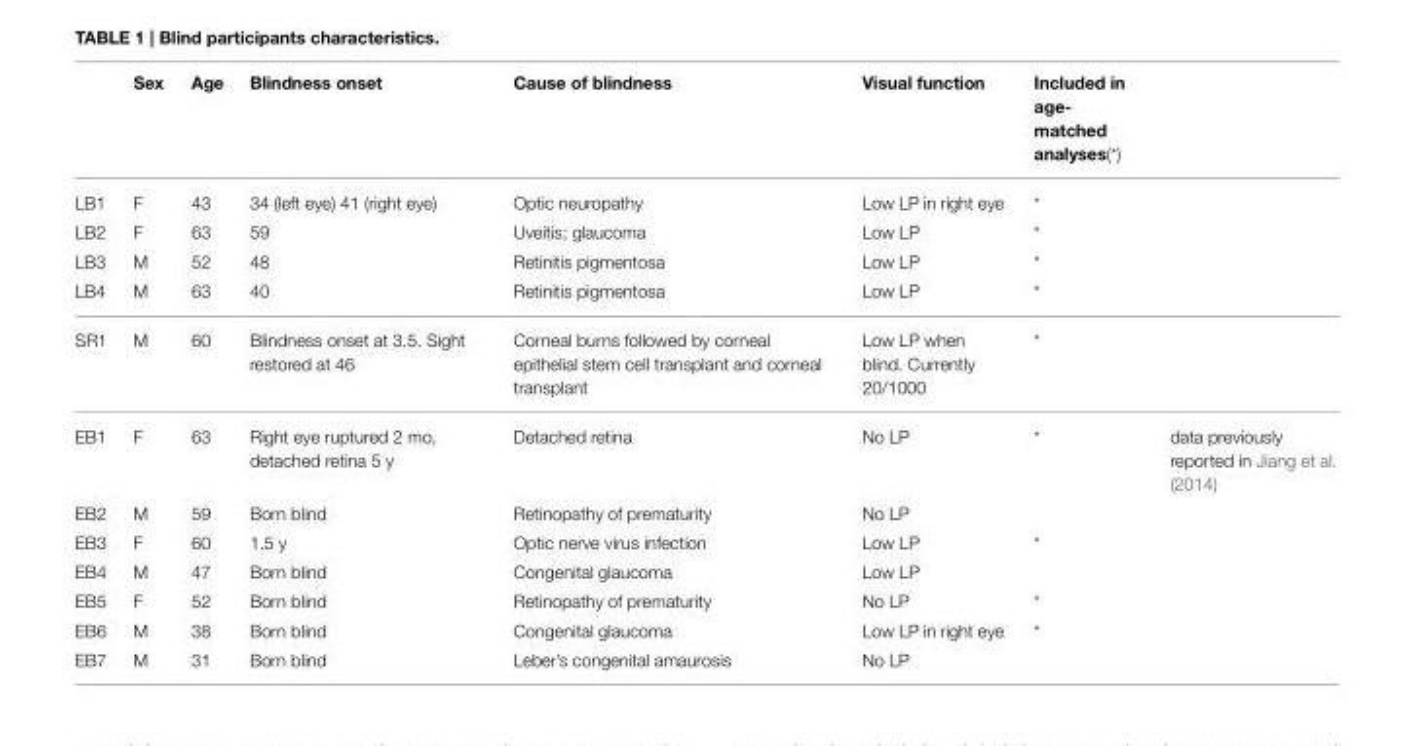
<table><thead><tr><td></td><td>Sex</td><td>Age</td><td>Blindness onset</td><td>Cause of blindness</td><td>Visual function</td><td>Included in age- matched analyses(*)</td><td></td></tr></thead><tbody><tr><td>LB1</td><td>F</td><td>43</td><td>34 (left eye) 41 (right eye)</td><td>Optic neuropathy</td><td>Low LP in right eye</td><td>*</td><td></td></tr><tr><td>LB2</td><td>F</td><td>63</td><td>59</td><td>Uveitis; glaucoma</td><td>Low LP</td><td>*</td><td></td></tr><tr><td>LB3</td><td>M</td><td>52</td><td>48</td><td>Retinitis pigmentosa</td><td>Low LP</td><td>*</td><td></td></tr><tr><td>LB4</td><td>M</td><td>63</td><td>40</td><td>Retinitis pigmentosa</td><td>Low LP</td><td>*</td><td></td></tr><tr><td>SR1</td><td>M</td><td>60</td><td>Blindness onset at 3.5. Sight restored at 46</td><td>Corneal burns followed by corneal epithelial stem cell transplant and corneal transplant</td><td>Low LP when blind. Currently 20/1000</td><td>*</td><td></td></tr><tr><td>EB1</td><td>F</td><td>63</td><td>Right eye ruptured 2 mo, detached retina 5 y</td><td>Detached retina</td><td>No LP</td><td>*</td><td>data previously reported in Jiang et al. (2014)</td></tr><tr><td>EB2</td><td>M</td><td>59</td><td>Born blind</td><td>Retinopathy of prematurity</td><td>No LP</td><td></td><td></td></tr><tr><td>EB3</td><td>F</td><td>60</td><td>1.5 y</td><td>Optic nerve virus infection</td><td>Low LP</td><td>*</td><td></td></tr><tr><td>EB4</td><td>M</td><td>47</td><td>Born blind</td><td>Congenital glaucoma</td><td>Low LP</td><td></td><td></td></tr><tr><td>EB5</td><td>F</td><td>52</td><td>Born blind</td><td>Retinopathy of prematurity</td><td>No LP</td><td>*</td><td></td></tr><tr><td>EB6</td><td>M</td><td>38</td><td>Born blind</td><td>Congenital glaucoma</td><td>Low LP in right eye</td><td>*</td><td></td></tr><tr><td>EB7</td><td>M</td><td>31</td><td>Born blind</td><td>Leber’s congenital amaurosis</td><td>No LP</td><td></td><td></td></tr></tbody></table>